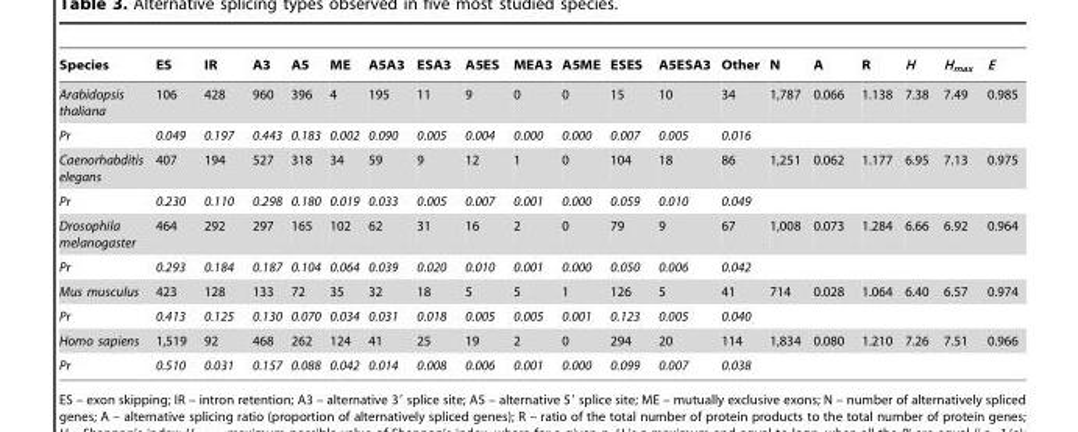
<table><thead><tr><td>Species</td><td>ES</td><td>IR</td><td>A3</td><td>A5</td><td>ME</td><td>A5A3</td><td>ESA3</td><td>A5ES</td><td>MEA3</td><td>A5ME</td><td>ESES</td><td>A5ESA3</td><td>Other</td><td>N</td><td>A</td><td>R</td><td>H</td><td>H<sub>max</sub></td><td>E</td></tr></thead><tbody><tr><td>Arabidopsis thaliana</td><td>106</td><td>428</td><td>960</td><td>396</td><td>4</td><td>195</td><td>11</td><td>9</td><td>0</td><td>0</td><td>15</td><td>10</td><td>34</td><td>1,787</td><td>0.066</td><td>1.138</td><td>7.38</td><td>7.49</td><td>0.985</td></tr><tr><td>Pr</td><td>0.049</td><td>0.197</td><td>0.443</td><td>0.183</td><td>0.002</td><td>0.090</td><td>0.005</td><td>0.004</td><td>0.000</td><td>0.000</td><td>0.007</td><td>0.005</td><td>0.016</td><td></td><td></td><td></td><td></td><td></td><td></td></tr><tr><td>Caenorhabditis elegans</td><td>407</td><td>194</td><td>527</td><td>318</td><td>34</td><td>59</td><td>9</td><td>12</td><td>1</td><td>0</td><td>104</td><td>18</td><td>86</td><td>1,251</td><td>0.062</td><td>1.177</td><td>6.95</td><td>7.13</td><td>0.975</td></tr><tr><td>Pr</td><td>0.230</td><td>0.110</td><td>0.298</td><td>0.180</td><td>0.019</td><td>0.033</td><td>0.005</td><td>0.007</td><td>0.001</td><td>0.000</td><td>0.059</td><td>0.010</td><td>0.049</td><td></td><td></td><td></td><td></td><td></td><td></td></tr><tr><td>Drosophila melanogaster</td><td>464</td><td>292</td><td>297</td><td>165</td><td>102</td><td>62</td><td>31</td><td>16</td><td>2</td><td>0</td><td>79</td><td>9</td><td>67</td><td>1,008</td><td>0.073</td><td>1.284</td><td>6.66</td><td>6.92</td><td>0.964</td></tr><tr><td>Pr</td><td>0.293</td><td>0.184</td><td>0.187</td><td>0.104</td><td>0.064</td><td>0.039</td><td>0.020</td><td>0.010</td><td>0.001</td><td>0.000</td><td>0.050</td><td>0.006</td><td>0.042</td><td></td><td></td><td></td><td></td><td></td><td></td></tr><tr><td>Mus musculus</td><td>423</td><td>128</td><td>133</td><td>72</td><td>35</td><td>32</td><td>18</td><td>5</td><td>5</td><td>1</td><td>126</td><td>5</td><td>41</td><td>714</td><td>0.028</td><td>1.064</td><td>6.40</td><td>6.57</td><td>0.974</td></tr><tr><td>Pr</td><td>0.413</td><td>0.125</td><td>0.130</td><td>0.070</td><td>0.034</td><td>0.031</td><td>0.018</td><td>0.005</td><td>0.005</td><td>0.001</td><td>0.123</td><td>0.005</td><td>0.040</td><td></td><td></td><td></td><td></td><td></td><td></td></tr><tr><td>Homo sapiens</td><td>1,519</td><td>92</td><td>468</td><td>262</td><td>124</td><td>41</td><td>25</td><td>19</td><td>2</td><td>0</td><td>294</td><td>20</td><td>114</td><td>1,834</td><td>0.080</td><td>1.210</td><td>7.26</td><td>7.51</td><td>0.966</td></tr><tr><td>Pr</td><td>0.510</td><td>0.031</td><td>0.157</td><td>0.088</td><td>0.042</td><td>0.014</td><td>0.008</td><td>0.006</td><td>0.001</td><td>0.000</td><td>0.099</td><td>0.007</td><td>0.038</td><td></td><td></td><td></td><td></td><td></td><td></td></tr></tbody></table>